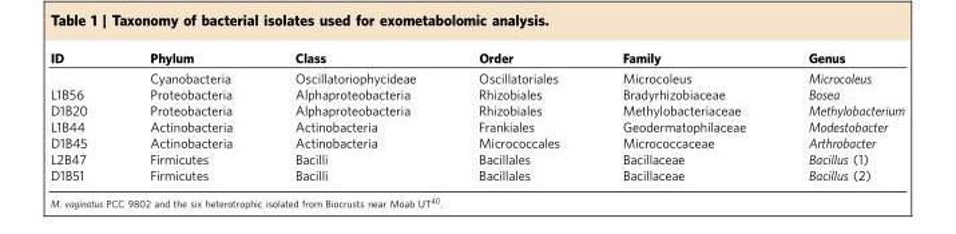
<table><thead><tr><td>ID</td><td>Phylum</td><td>Class</td><td>Order</td><td>Family</td><td>Genus</td></tr></thead><tbody><tr><td></td><td>Cyanobacteria</td><td>Oscillatoriophycideae</td><td>Oscillatoriales</td><td>Microcoleus</td><td>Microcoleus</td></tr><tr><td>L1B56</td><td>Proteobacteria</td><td>Alphaproteobacteria</td><td>Rhizobiales</td><td>Bradyrhizobiaceae</td><td>Bosea</td></tr><tr><td>D1B20</td><td>Proteobacteria</td><td>Alphaproteobacteria</td><td>Rhizobiales</td><td>Methylobacteriaceae</td><td>Methylobacterium</td></tr><tr><td>L1B44</td><td>Actinobacteria</td><td>Actinobacteria</td><td>Frankiales</td><td>Geodermatophilaceae</td><td>Modestobacter</td></tr><tr><td>D1B45</td><td>Actinobacteria</td><td>Actinobacteria</td><td>Micrococcales</td><td>Micrococcaceae</td><td>Arthrobacter</td></tr><tr><td>L2B47</td><td>Firmicutes</td><td>Bacilli</td><td>Bacillales</td><td>Bacillaceae</td><td>Bacillus (1)</td></tr><tr><td>D1B51</td><td>Firmicutes</td><td>Bacilli</td><td>Bacillales</td><td>Bacillaceae</td><td>Bacillus (2)</td></tr></tbody></table>